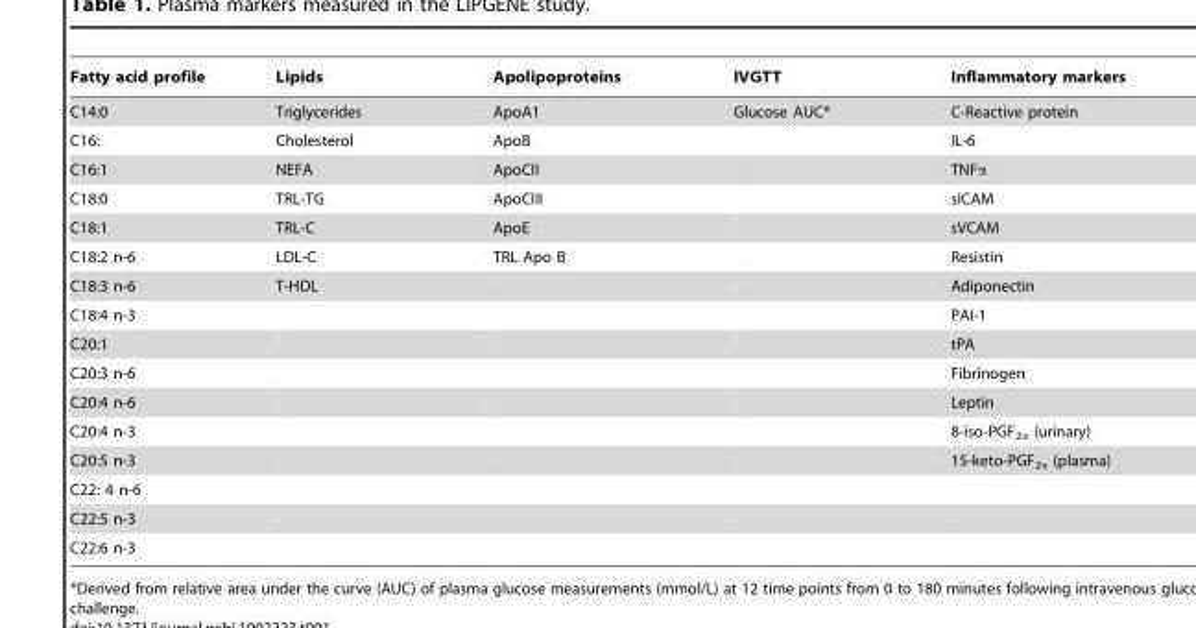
<table><thead><tr><td>Fatty acid profile</td><td>Lipids</td><td>Apolipoproteins</td><td>IVGTT</td><td>Inflammatory markers</td></tr></thead><tbody><tr><td>C14:0</td><td>Triglycerides</td><td>ApoA1</td><td>Glucose AUC*</td><td>C-Reactive protein</td></tr><tr><td>C16:</td><td>Cholesterol</td><td>ApoB</td><td></td><td>IL-6</td></tr><tr><td>C16:1</td><td>NEFA</td><td>ApoCII</td><td></td><td>TNFα</td></tr><tr><td>C18:0</td><td>TRL-TG</td><td>ApoCIII</td><td></td><td>sICAM</td></tr><tr><td>C18:1</td><td>TRL-C</td><td>ApoE</td><td></td><td>sVCAM</td></tr><tr><td>C18:2 n-6</td><td>LDL-C</td><td>TRL Apo B</td><td></td><td>Resistin</td></tr><tr><td>C18:3 n-6</td><td>T-HDL</td><td></td><td></td><td>Adiponectin</td></tr><tr><td>C18:4 n-3</td><td></td><td></td><td></td><td>PAI-1</td></tr><tr><td>C20:1</td><td></td><td></td><td></td><td>tPA</td></tr><tr><td>C20:3 n-6</td><td></td><td></td><td></td><td>Fibrinogen</td></tr><tr><td>C20:4 n-6</td><td></td><td></td><td></td><td>Leptin</td></tr><tr><td>C20:4 n-3</td><td></td><td></td><td></td><td>8-iso-PGF<sub>2α</sub> (urinary)</td></tr><tr><td>C20:5 n-3</td><td></td><td></td><td></td><td>15-keto-PGF<sub>2α</sub> (plasma)</td></tr><tr><td colspan="5">C22: 4 n-6</td></tr><tr><td colspan="5">C22:5 n-3</td></tr><tr><td>C22:6 n-3</td><td></td><td></td><td></td><td></td></tr></tbody></table>